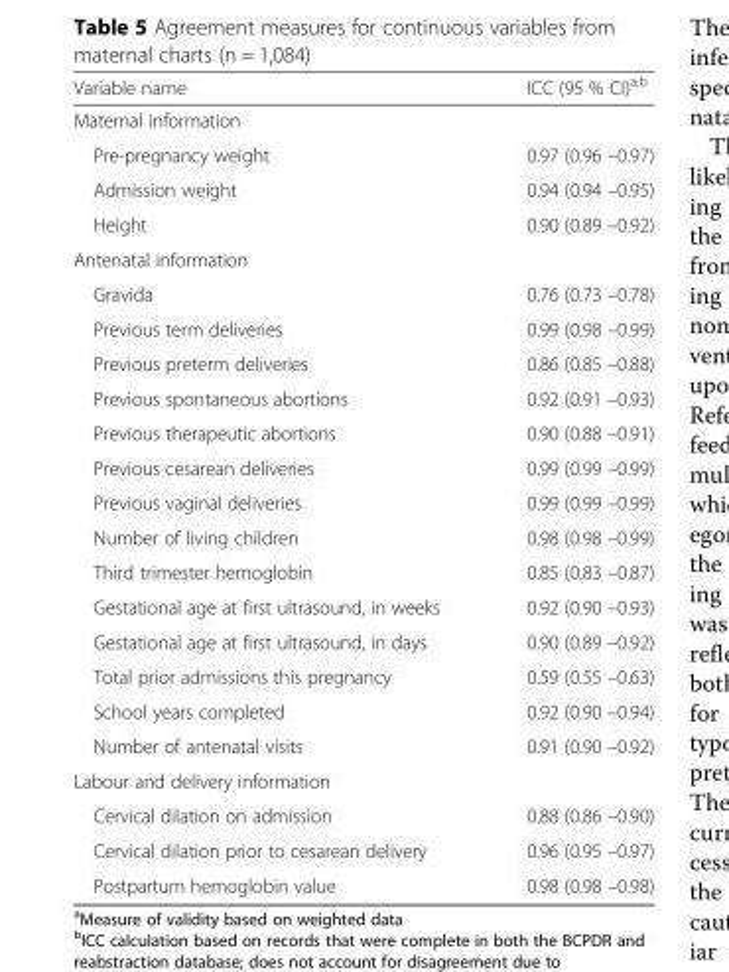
<table><thead><tr><td>Variable name</td><td>ICC (95 % CI)<sup>a,b</sup></td></tr></thead><tbody><tr><td colspan="2">Maternal information</td></tr><tr><td>Pre-pregnancy weight</td><td>0.97 (0.96 –0.97)</td></tr><tr><td>Admission weight</td><td>0.94 (0.94 –0.95)</td></tr><tr><td>Height</td><td>0.90 (0.89 –0.92)</td></tr><tr><td colspan="2">Antenatal information</td></tr><tr><td>Gravida</td><td>0.76 (0.73 –0.78)</td></tr><tr><td>Previous term deliveries</td><td>0.99 (0.98 –0.99)</td></tr><tr><td>Previous preterm deliveries</td><td>0.86 (0.85 –0.88)</td></tr><tr><td>Previous spontaneous abortions</td><td>0.92 (0.91 –0.93)</td></tr><tr><td>Previous therapeutic abortions</td><td>0.90 (0.88 –0.91)</td></tr><tr><td>Previous cesarean deliveries</td><td>0.99 (0.99 –0.99)</td></tr><tr><td>Previous vaginal deliveries</td><td>0.99 (0.99 –0.99)</td></tr><tr><td>Number of living children</td><td>0.98 (0.98 –0.99)</td></tr><tr><td>Third trimester hemoglobin</td><td>0.85 (0.83 –0.87)</td></tr><tr><td>Gestational age at first ultrasound, in weeks</td><td>0.92 (0.90 –0.93)</td></tr><tr><td>Gestational age at first ultrasound, in days</td><td>0.90 (0.89 –0.92)</td></tr><tr><td>Total prior admissions this pregnancy</td><td>0.59 (0.55 –0.63)</td></tr><tr><td>School years completed</td><td>0.92 (0.90 –0.94)</td></tr><tr><td>Number of antenatal visits</td><td>0.91 (0.90 –0.92)</td></tr><tr><td colspan="2">Labour and delivery information</td></tr><tr><td>Cervical dilation on admission</td><td>0.88 (0.86 –0.90)</td></tr><tr><td>Cervical dilation prior to cesarean delivery</td><td>0.96 (0.95 –0.97)</td></tr><tr><td>Postpartum hemoglobin value</td><td>0.98 (0.98 –0.98)</td></tr></tbody></table>